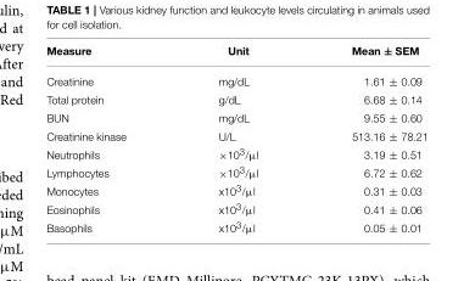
<table><thead><tr><td>Measure</td><td>Unit</td><td>Mean ± SEM</td></tr></thead><tbody><tr><td>Creatinine</td><td>mg/dL</td><td>1.61 ± 0.09</td></tr><tr><td>Total protein</td><td>g/dL</td><td>6.68 ± 0.14</td></tr><tr><td>BUN</td><td>mg/dL</td><td>9.55 ± 0.60</td></tr><tr><td>Creatinine kinase</td><td>U/L</td><td>513.16 ± 78.21</td></tr><tr><td>Neutrophils</td><td>×10<sup>3</sup>/µl</td><td>3.19 ± 0.51</td></tr><tr><td>Lymphocytes</td><td>×10<sup>3</sup>/µl</td><td>6.72 ± 0.62</td></tr><tr><td>Monocytes</td><td>x10<sup>3</sup>/µl</td><td>0.31 ± 0.03</td></tr><tr><td>Eosinophils</td><td>x10<sup>3</sup>/µl</td><td>0.41 ± 0.06</td></tr><tr><td>Basophils</td><td>x10<sup>3</sup>/µl</td><td>0.05 ± 0.01</td></tr></tbody></table>